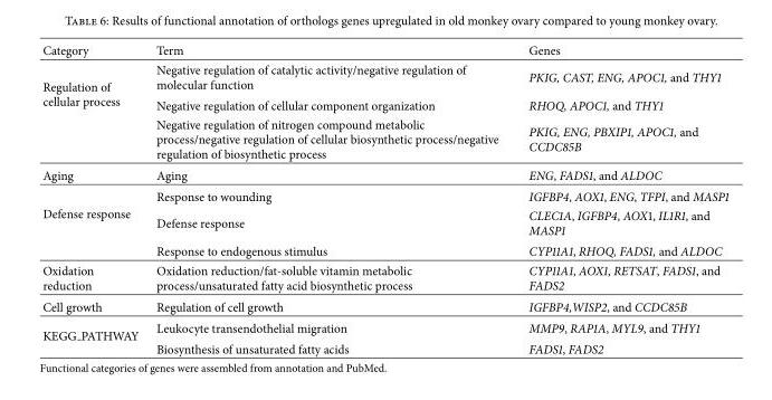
<table><thead><tr><td>Category</td><td>Term</td><td>Genes</td></tr></thead><tbody><tr><td rowspan="3">Regulation of cellular process</td><td>Negative regulation of catalytic activity/negative regulation of molecular function</td><td>PKIG, CAST, ENG, APOC1, and THY1</td></tr><tr><td>Negative regulation of cellular component organization</td><td>RHOQ, APOC1, and THY1</td></tr><tr><td>Negative regulation of nitrogen compound metabolic process/negative regulation of cellular biosynthetic process/negative regulation of biosynthetic process</td><td>PKIG, ENG, PBXIP1, APOC1, and CCDC85B</td></tr><tr><td>Aging</td><td>Aging</td><td>ENG, FADS1, and ALDOC</td></tr><tr><td rowspan="3">Defense response</td><td>Response to wounding</td><td>IGFBP4, AOX1, ENG, TFPI, and MASP1</td></tr><tr><td>Defense response</td><td>CLEC1A, IGFBP4, AOX1, IL1R1, and MASP1</td></tr><tr><td>Response to endogenous stimulus</td><td>CYP11A1, RHOQ, FADS1, and ALDOC</td></tr><tr><td>Oxidation reduction</td><td>Oxidation reduction/fat-soluble vitamin metabolic process/unsaturated fatty acid biosynthetic process</td><td>CYP11A1, AOX1, RETSAT, FADS1, and FADS2</td></tr><tr><td>Cell growth</td><td>Regulation of cell growth</td><td>IGFBP4,WISP2, and CCDC85B</td></tr><tr><td rowspan="2">KEGG PATHWAY</td><td>Leukocyte transendothelial migration</td><td>MMP9, RAP1A, MYL9, and THY1</td></tr><tr><td>Biosynthesis of unsaturated fatty acids</td><td>FADS1, FADS2</td></tr></tbody></table>